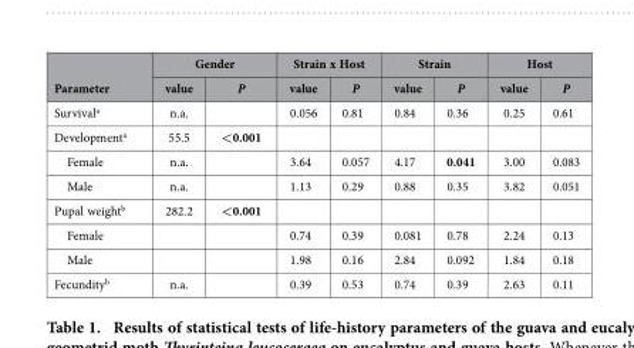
<table><thead><tr><td rowspan="2">Parameter</td><td colspan="2">Gender</td><td colspan="2">Strain x Host</td><td colspan="2">Strain</td><td colspan="2">Host</td></tr><tr><td>value</td><td>P</td><td>value</td><td>P</td><td>value</td><td>P</td><td>value</td><td>P</td></tr></thead><tbody><tr><td>Survival<sup>a</sup></td><td>n.a.</td><td></td><td>0.056</td><td>0.81</td><td>0.84</td><td>0.36</td><td>0.25</td><td>0.61</td></tr><tr><td>Development<sup>a</sup></td><td>55.5</td><td>&lt;0.001</td><td></td><td></td><td></td><td></td><td></td><td></td></tr><tr><td>Female</td><td>n.a.</td><td></td><td>3.64</td><td>0.057</td><td>4.17</td><td>0.041</td><td>3.00</td><td>0.083</td></tr><tr><td>Male</td><td>n.a.</td><td></td><td>1.13</td><td>0.29</td><td>0.88</td><td>0.35</td><td>3.82</td><td>0.051</td></tr><tr><td>Pupal weight<sup>b</sup></td><td>282.2</td><td>&lt;0.001</td><td></td><td></td><td></td><td></td><td></td><td></td></tr><tr><td>Female</td><td></td><td></td><td>0.74</td><td>0.39</td><td>0.081</td><td>0.78</td><td>2.24</td><td>0.13</td></tr><tr><td>Male</td><td></td><td></td><td>1.98</td><td>0.16</td><td>2.84</td><td>0.092</td><td>1.84</td><td>0.18</td></tr><tr><td>Fecundity<sup>b</sup></td><td>n.a.</td><td></td><td>0.39</td><td>0.53</td><td>0.74</td><td>0.39</td><td>2.63</td><td>0.11</td></tr></tbody></table>